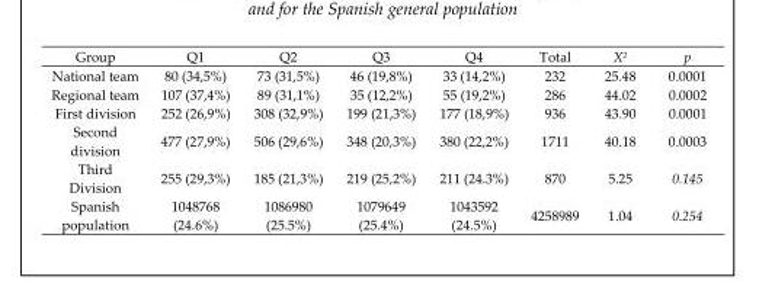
<table><thead><tr><td>Group</td><td>Q1</td><td>Q2</td><td>Q3</td><td>Q4</td><td>Total</td><td>X<sup>2</sup></td><td>p</td></tr></thead><tbody><tr><td>National team</td><td>80 (34,5%)</td><td>73 (31,5%)</td><td>46 (19,8%)</td><td>33 (14,2%)</td><td>232</td><td>25.48</td><td>0.0001</td></tr><tr><td>Regional team</td><td>107 (37,4%)</td><td>89 (31,1%)</td><td>35 (12,2%)</td><td>55 (19,2%)</td><td>286</td><td>44.02</td><td>0.0002</td></tr><tr><td>First division</td><td>252 (26,9%)</td><td>308 (32,9%)</td><td>199 (21,3%)</td><td>177 (18,9%)</td><td>936</td><td>43.90</td><td>0.0001</td></tr><tr><td>Second division</td><td>477 (27,9%)</td><td>506 (29,6%)</td><td>348 (20,3%)</td><td>380 (22,2%)</td><td>1711</td><td>40.18</td><td>0.0003</td></tr><tr><td>Third Division</td><td>255 (29,3%)</td><td>185 (21,3%)</td><td>219 (25,2%)</td><td>211 (24.3%)</td><td>870</td><td>5.25</td><td>0.145</td></tr><tr><td>Spanish population</td><td>1048768 (24.6%)</td><td>1086980 (25.5%)</td><td>1079649 (25.4%)</td><td>1043592 (24.5%)</td><td>4258989</td><td>1.04</td><td>0.254</td></tr></tbody></table>